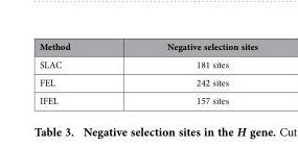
<table><thead><tr><td>Method</td><td>Negative selection sites</td></tr></thead><tbody><tr><td>SLAC</td><td>181 sites</td></tr><tr><td>FEL</td><td>242 sites</td></tr><tr><td>IFEL</td><td>157 sites</td></tr></tbody></table>